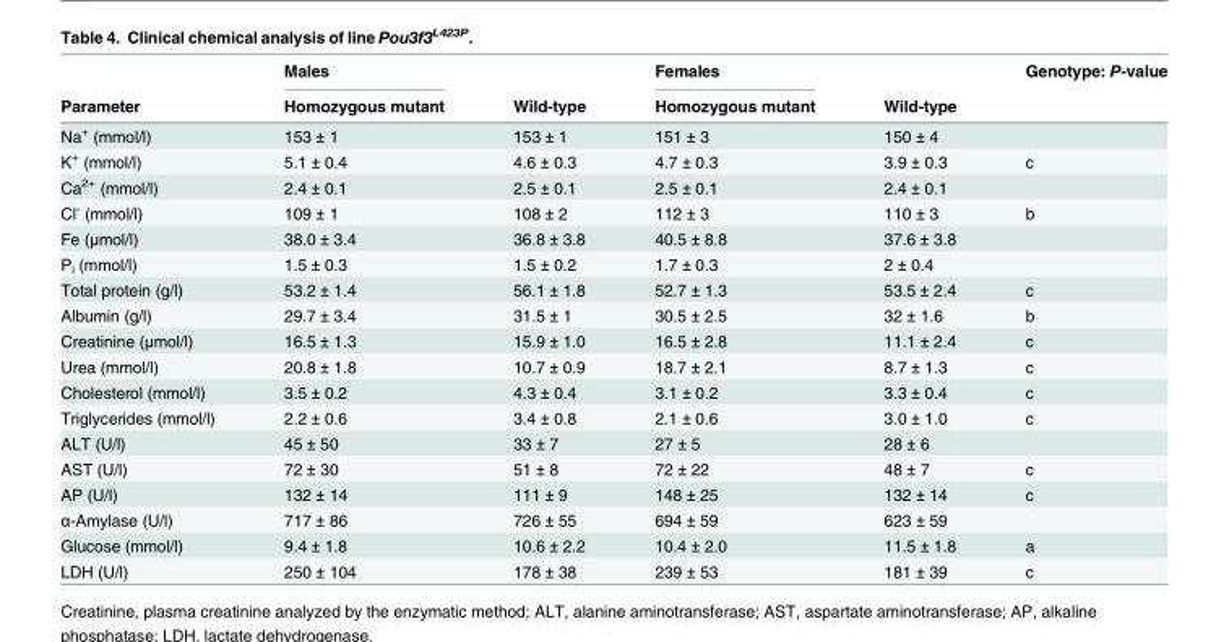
<table><thead><tr><td rowspan="2">Parameter</td><td rowspan="2">Males Homozygous mutant</td><td rowspan="2">Wild-type</td><td rowspan="2">Females Homozygous mutant</td><td rowspan="2">Wild-type</td><td rowspan="2">Genotype: P-value</td></tr><tr></tr></thead><tbody><tr><td>Na<sup>+</sup> (mmol/l)</td><td>153 ± 1</td><td>153 ± 1</td><td>151 ± 3</td><td>150 ± 4</td><td></td></tr><tr><td>K<sup>+</sup> (mmol/l)</td><td>5.1 ± 0.4</td><td>4.6 ± 0.3</td><td>4.7 ± 0.3</td><td>3.9 ± 0.3</td><td>c</td></tr><tr><td>Ca<sup>2+</sup> (mmol/l)</td><td>2.4 ± 0.1</td><td>2.5 ± 0.1</td><td>2.5 ± 0.1</td><td>2.4 ± 0.1</td><td></td></tr><tr><td>Cl<sup>-</sup> (mmol/l)</td><td>109 ± 1</td><td>108 ± 2</td><td>112 ± 3</td><td>110 ± 3</td><td>b</td></tr><tr><td>Fe (μmol/l)</td><td>38.0 ± 3.4</td><td>36.8 ± 3.8</td><td>40.5 ± 8.8</td><td>37.6 ± 3.8</td><td></td></tr><tr><td>P<sub>i</sub> (mmol/l)</td><td>1.5 ± 0.3</td><td>1.5 ± 0.2</td><td>1.7 ± 0.3</td><td>2 ± 0.4</td><td></td></tr><tr><td>Total protein (g/l)</td><td>53.2 ± 1.4</td><td>56.1 ± 1.8</td><td>52.7 ± 1.3</td><td>53.5 ± 2.4</td><td>c</td></tr><tr><td>Albumin (g/l)</td><td>29.7 ± 3.4</td><td>31.5 ± 1</td><td>30.5 ± 2.5</td><td>32 ± 1.6</td><td>b</td></tr><tr><td>Creatinine (μmol/l)</td><td>16.5 ± 1.3</td><td>15.9 ± 1.0</td><td>16.5 ± 2.8</td><td>11.1 ± 2.4</td><td>c</td></tr><tr><td>Urea (mmol/l)</td><td>20.8 ± 1.8</td><td>10.7 ± 0.9</td><td>18.7 ± 2.1</td><td>8.7 ± 1.3</td><td>c</td></tr><tr><td>Cholesterol (mmol/l)</td><td>3.5 ± 0.2</td><td>4.3 ± 0.4</td><td>3.1 ± 0.2</td><td>3.3 ± 0.4</td><td>c</td></tr><tr><td>Triglycerides (mmol/l)</td><td>2.2 ± 0.6</td><td>3.4 ± 0.8</td><td>2.1 ± 0.6</td><td>3.0 ± 1.0</td><td>c</td></tr><tr><td>ALT (U/l)</td><td>45 ± 50</td><td>33 ± 7</td><td>27 ± 5</td><td>28 ± 6</td><td></td></tr><tr><td>AST (U/l)</td><td>72 ± 30</td><td>51 ± 8</td><td>72 ± 22</td><td>48 ± 7</td><td>c</td></tr><tr><td>AP (U/l)</td><td>132 ± 14</td><td>111 ± 9</td><td>148 ± 25</td><td>132 ± 14</td><td>c</td></tr><tr><td>α-Amylase (U/l)</td><td>717 ± 86</td><td>726 ± 55</td><td>694 ± 59</td><td>623 ± 59</td><td></td></tr><tr><td>Glucose (mmol/l)</td><td>9.4 ± 1.8</td><td>10.6 ± 2.2</td><td>10.4 ± 2.0</td><td>11.5 ± 1.8</td><td>a</td></tr><tr><td>LDH (U/l)</td><td>250 ± 104</td><td>178 ± 38</td><td>239 ± 53</td><td>181 ± 39</td><td>c</td></tr></tbody></table>